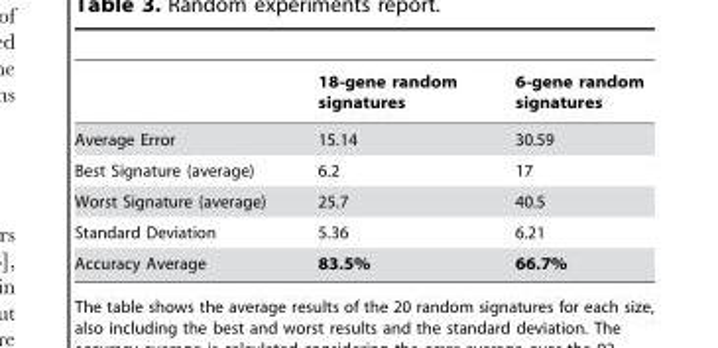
<table><thead><tr><td></td><td>18-gene random signatures</td><td>6-gene random signatures</td></tr></thead><tbody><tr><td>Average Error</td><td>15.14</td><td>30.59</td></tr><tr><td>Best Signature (average)</td><td>6.2</td><td>17</td></tr><tr><td>Worst Signature (average)</td><td>25.7</td><td>40.5</td></tr><tr><td>Standard Deviation</td><td>5.36</td><td>6.21</td></tr><tr><td>Accuracy Average</td><td>83.5%</td><td>66.7%</td></tr></tbody></table>